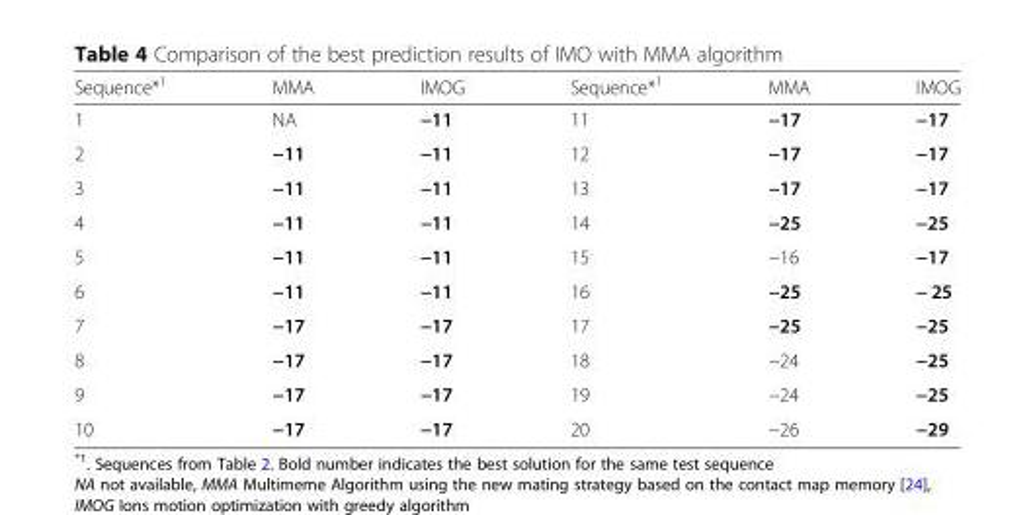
<table><thead><tr><td>Sequence*<sup>1</sup></td><td>MMA</td><td>IMOG</td><td>Sequence*<sup>1</sup></td><td>MMA</td><td>IMOG</td></tr></thead><tbody><tr><td>1</td><td>NA</td><td>−11</td><td>11</td><td>−17</td><td>−17</td></tr><tr><td>2</td><td>−11</td><td>−11</td><td>12</td><td>−17</td><td>−17</td></tr><tr><td>3</td><td>−11</td><td>−11</td><td>13</td><td>−17</td><td>−17</td></tr><tr><td>4</td><td>−11</td><td>−11</td><td>14</td><td>−25</td><td>−25</td></tr><tr><td>5</td><td>−11</td><td>−11</td><td>15</td><td>−16</td><td>−17</td></tr><tr><td>6</td><td>−11</td><td>−11</td><td>16</td><td>−25</td><td>− 25</td></tr><tr><td>7</td><td>−17</td><td>−17</td><td>17</td><td>−25</td><td>−25</td></tr><tr><td>8</td><td>−17</td><td>−17</td><td>18</td><td>−24</td><td>−25</td></tr><tr><td>9</td><td>−17</td><td>−17</td><td>19</td><td>−24</td><td>−25</td></tr><tr><td>10</td><td>−17</td><td>−17</td><td>20</td><td>−26</td><td>−29</td></tr></tbody></table>